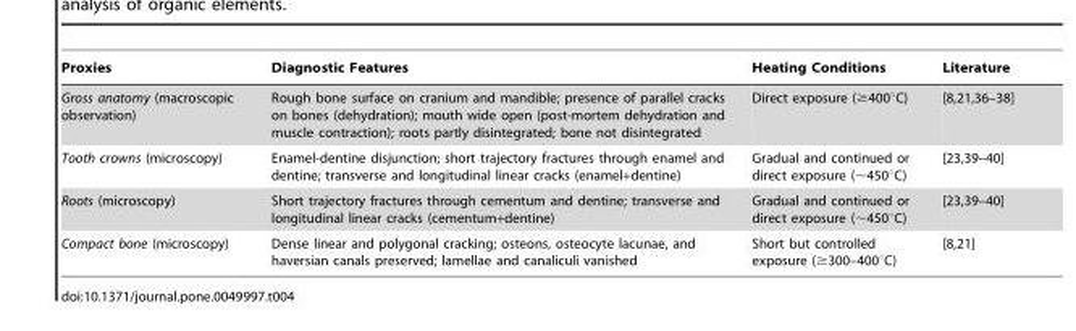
<table><thead><tr><td>Proxies</td><td>Diagnostic Features</td><td>Heating Conditions</td><td>Literature</td></tr></thead><tbody><tr><td>Gross anatomy (macroscopic observation)</td><td>Rough bone surface on cranium and mandible; presence of parallel cracks on bones (dehydration); mouth wide open (post-mortem dehydration and muscle contraction); roots partly disintegrated; bone not disintegrated</td><td>Direct exposure (≥400°C)</td><td>[8,21,36–38]</td></tr><tr><td>Tooth crowns (microscopy)</td><td>Enamel-dentine disjunction; short trajectory fractures through enamel and dentine; transverse and longitudinal linear cracks (enamel+dentine)</td><td>Gradual and continued or direct exposure (∼450°C)</td><td>[23,39–40]</td></tr><tr><td>Roots (microscopy)</td><td>Short trajectory fractures through cementum and dentine; transverse and longitudinal linear cracks (cementum+dentine)</td><td>Gradual and continued or direct exposure (∼450°C)</td><td>[23,39–40]</td></tr><tr><td>Compact bone (microscopy)</td><td>Dense linear and polygonal cracking; osteons, osteocyte lacunae, and haversian canals preserved; lamellae and canaliculi vanished</td><td>Short but controlled exposure (≥300–400°C)</td><td>[8,21]</td></tr></tbody></table>